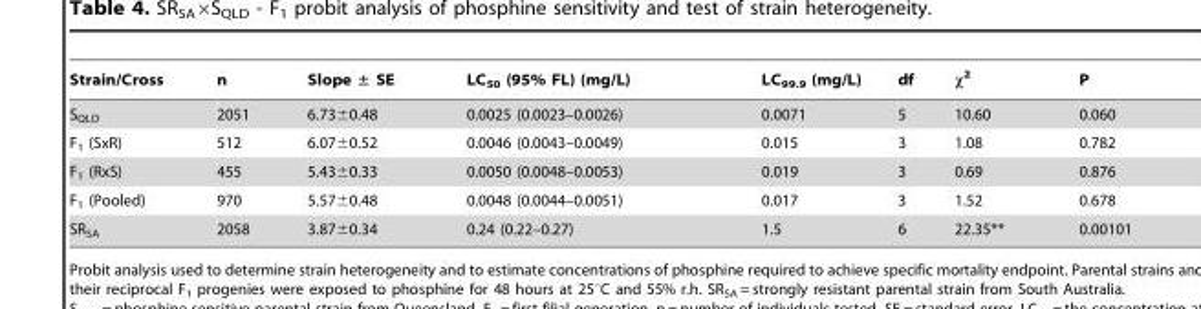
<table><thead><tr><td>Strain/Cross</td><td>n</td><td>Slope ± SE</td><td>LC<sub>50</sub> (95% FL) (mg/L)</td><td>LC<sub>99.9</sub> (mg/L)</td><td>df</td><td>χ<sup>2</sup></td><td>P</td></tr></thead><tbody><tr><td>S<sub>QLD</sub></td><td>2051</td><td>6.73±0.48</td><td>0.0025 (0.0023–0.0026)</td><td>0.0071</td><td>5</td><td>10.60</td><td>0.060</td></tr><tr><td>F<sub>1</sub> (SxR)</td><td>512</td><td>6.07±0.52</td><td>0.0046 (0.0043–0.0049)</td><td>0.015</td><td>3</td><td>1.08</td><td>0.782</td></tr><tr><td>F<sub>1</sub> (RxS)</td><td>455</td><td>5.43±0.33</td><td>0.0050 (0.0048–0.0053)</td><td>0.019</td><td>3</td><td>0.69</td><td>0.876</td></tr><tr><td>F<sub>1</sub> (Pooled)</td><td>970</td><td>5.57±0.48</td><td>0.0048 (0.0044–0.0051)</td><td>0.017</td><td>3</td><td>1.52</td><td>0.678</td></tr><tr><td>SR<sub>SA</sub></td><td>2058</td><td>3.87±0.34</td><td>0.24 (0.22–0.27)</td><td>1.5</td><td>6</td><td>22.35**</td><td>0.00101</td></tr></tbody></table>